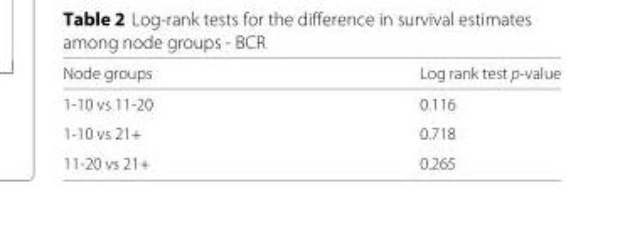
<table><thead><tr><td>Node groups</td><td>Log rank test p-value</td></tr></thead><tbody><tr><td>1-10 vs 11-20</td><td>0.116</td></tr><tr><td>1-10 vs 21+</td><td>0.718</td></tr><tr><td>11-20 vs 21+</td><td>0.265</td></tr></tbody></table>